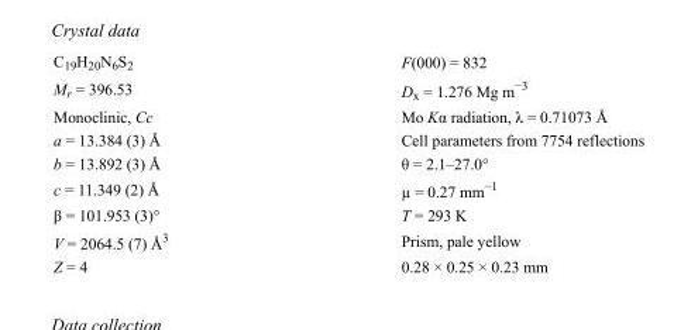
<table><tbody><tr><td>C<sub>19</sub>H<sub>20</sub>N<sub>6</sub>S<sub>2</sub></td><td>F(000) = 832</td></tr><tr><td>M<sub>r</sub> = 396.53</td><td>D<sub>x</sub> = 1.276 Mg m<sup>−3</sup></td></tr><tr><td>Monoclinic, Cc</td><td>Mo Kα radiation, λ = 0.71073 Å</td></tr><tr><td>a = 13.384 (3) Å</td><td>Cell parameters from 7754 reflections</td></tr><tr><td>b = 13.892 (3) Å</td><td>θ = 2.1–27.0°</td></tr><tr><td>c = 11.349 (2) Å</td><td>µ = 0.27 mm<sup>−1</sup></td></tr><tr><td>β = 101.953 (3)°</td><td>T = 293 K</td></tr><tr><td>V = 2064.5 (7) Å<sup>3</sup></td><td>Prism, pale yellow</td></tr><tr><td>Z = 4</td><td>0.28 × 0.25 × 0.23 mm</td></tr></tbody></table>